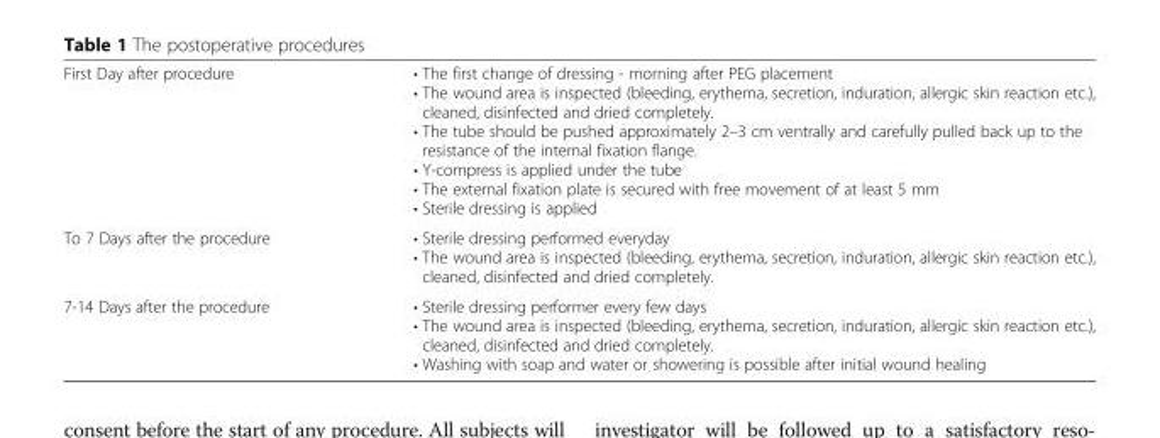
<table><tbody><tr><td>First Day after procedure</td><td>• The first change of dressing - morning after PEG placement • The wound area is inspected (bleeding, erythema, secretion, induration, allergic skin reaction etc.), cleaned, disinfected and dried completely. • The tube should be pushed approximately 2–3 cm ventrally and carefully pulled back up to the resistance of the internal fixation flange. • Y-compress is applied under the tube • The external fixation plate is secured with free movement of at least 5 mm • Sterile dressing is applied</td></tr><tr><td>To 7 Days after the procedure</td><td>• Sterile dressing performed everyday • The wound area is inspected (bleeding, erythema, secretion, induration, allergic skin reaction etc.), cleaned, disinfected and dried completely.</td></tr><tr><td>7-14 Days after the procedure</td><td>• Sterile dressing performer every few days • The wound area is inspected (bleeding, erythema, secretion, induration, allergic skin reaction etc.), cleaned, disinfected and dried completely. • Washing with soap and water or showering is possible after initial wound healing</td></tr></tbody></table>